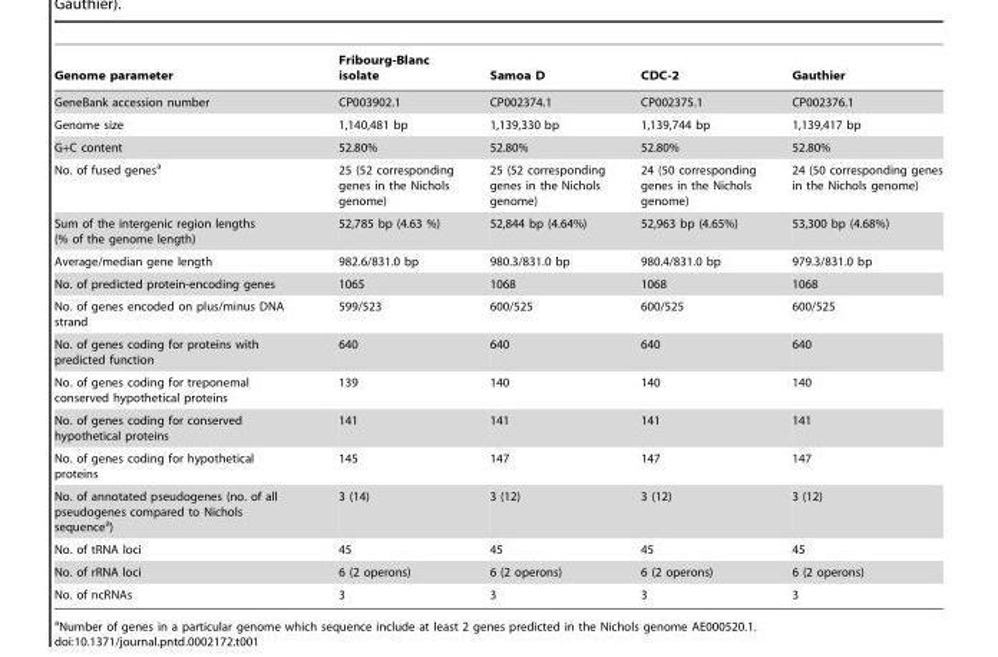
<table><thead><tr><td>Genome parameter</td><td>Fribourg-Blanc isolate</td><td>Samoa D</td><td>CDC-2</td><td>Gauthier</td></tr></thead><tbody><tr><td>GeneBank accession number</td><td>CP003902.1</td><td>CP002374.1</td><td>CP002375.1</td><td>CP002376.1</td></tr><tr><td>Genome size</td><td>1,140,481 bp</td><td>1,139,330 bp</td><td>1,139,744 bp</td><td>1,139,417 bp</td></tr><tr><td>G+C content</td><td>52.80%</td><td>52.80%</td><td>52.80%</td><td>52.80%</td></tr><tr><td>No. of fused genes<sup>a</sup></td><td>25 (52 corresponding genes in the Nichols genome)</td><td>25 (52 corresponding genes in the Nichols genome)</td><td>24 (50 corresponding genes in the Nichols genome)</td><td>24 (50 corresponding genes in the Nichols genome)</td></tr><tr><td>Sum of the intergenic region lengths (% of the genome length)</td><td>52,785 bp (4.63 %)</td><td>52,844 bp (4.64%)</td><td>52,963 bp (4.65%)</td><td>53,300 bp (4.68%)</td></tr><tr><td>Average/median gene length</td><td>982.6/831.0 bp</td><td>980.3/831.0 bp</td><td>980.4/831.0 bp</td><td>979.3/831.0 bp</td></tr><tr><td>No. of predicted protein-encoding genes</td><td>1065</td><td>1068</td><td>1068</td><td>1068</td></tr><tr><td>No. of genes encoded on plus/minus DNA strand</td><td>599/523</td><td>600/525</td><td>600/525</td><td>600/525</td></tr><tr><td>No. of genes coding for proteins with predicted function</td><td>640</td><td>640</td><td>640</td><td>640</td></tr><tr><td>No. of genes coding for treponemal conserved hypothetical proteins</td><td>139</td><td>140</td><td>140</td><td>140</td></tr><tr><td>No. of genes coding for conserved hypothetical proteins</td><td>141</td><td>141</td><td>141</td><td>141</td></tr><tr><td>No. of genes coding for hypothetical proteins</td><td>145</td><td>147</td><td>147</td><td>147</td></tr><tr><td>No. of annotated pseudogenes (no. of all pseudogenes compared to Nichols sequence<sup>a</sup>)</td><td>3 (14)</td><td>3 (12)</td><td>3 (12)</td><td>3 (12)</td></tr><tr><td>No. of tRNA loci</td><td>45</td><td>45</td><td>45</td><td>45</td></tr><tr><td>No. of rRNA loci</td><td>6 (2 operons)</td><td>6 (2 operons)</td><td>6 (2 operons)</td><td>6 (2 operons)</td></tr><tr><td>No. of ncRNAs</td><td>3</td><td>3</td><td>3</td><td>3</td></tr></tbody></table>